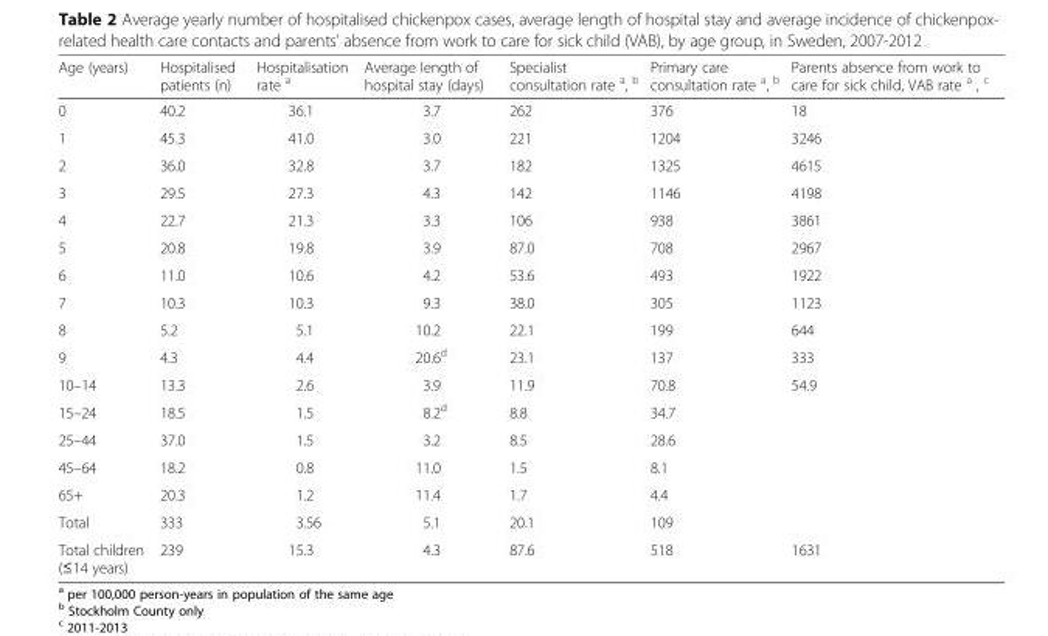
<table><thead><tr><td>Age (years)</td><td>Hospitalised patients (n)</td><td>Hospitalisation rate <sup>a</sup></td><td>Average length of hospital stay (days)</td><td>Specialist consultation rate <sup>a</sup>, <sup>b</sup></td><td>Primary care consultation rate <sup>a</sup>, <sup>b</sup></td><td>Parents absence from work to care for sick child, VAB rate <sup>a</sup> , <sup>c</sup></td></tr></thead><tbody><tr><td>0</td><td>40.2</td><td>36.1</td><td>3.7</td><td>262</td><td>376</td><td>18</td></tr><tr><td>1</td><td>45.3</td><td>41.0</td><td>3.0</td><td>221</td><td>1204</td><td>3246</td></tr><tr><td>2</td><td>36.0</td><td>32.8</td><td>3.7</td><td>182</td><td>1325</td><td>4615</td></tr><tr><td>3</td><td>29.5</td><td>27.3</td><td>4.3</td><td>142</td><td>1146</td><td>4198</td></tr><tr><td>4</td><td>22.7</td><td>21.3</td><td>3.3</td><td>106</td><td>938</td><td>3861</td></tr><tr><td>5</td><td>20.8</td><td>19.8</td><td>3.9</td><td>87.0</td><td>708</td><td>2967</td></tr><tr><td>6</td><td>11.0</td><td>10.6</td><td>4.2</td><td>53.6</td><td>493</td><td>1922</td></tr><tr><td>7</td><td>10.3</td><td>10.3</td><td>9.3</td><td>38.0</td><td>305</td><td>1123</td></tr><tr><td>8</td><td>5.2</td><td>5.1</td><td>10.2</td><td>22.1</td><td>199</td><td>644</td></tr><tr><td>9</td><td>4.3</td><td>4.4</td><td>20.6<sup>d</sup></td><td>23.1</td><td>137</td><td>333</td></tr><tr><td>10–14</td><td>13.3</td><td>2.6</td><td>3.9</td><td>11.9</td><td>70.8</td><td>54.9</td></tr><tr><td>15–24</td><td>18.5</td><td>1.5</td><td>8.2<sup>d</sup></td><td>8.8</td><td>34.7</td><td></td></tr><tr><td>25–44</td><td>37.0</td><td>1.5</td><td>3.2</td><td>8.5</td><td>28.6</td><td></td></tr><tr><td>45–64</td><td>18.2</td><td>0.8</td><td>11.0</td><td>1.5</td><td>8.1</td><td></td></tr><tr><td>65+</td><td>20.3</td><td>1.2</td><td>11.4</td><td>1.7</td><td>4.4</td><td></td></tr><tr><td>Total</td><td>333</td><td>3.56</td><td>5.1</td><td>20.1</td><td>109</td><td></td></tr><tr><td>Total children (≤14 years)</td><td>239</td><td>15.3</td><td>4.3</td><td>87.6</td><td>518</td><td>1631</td></tr></tbody></table>